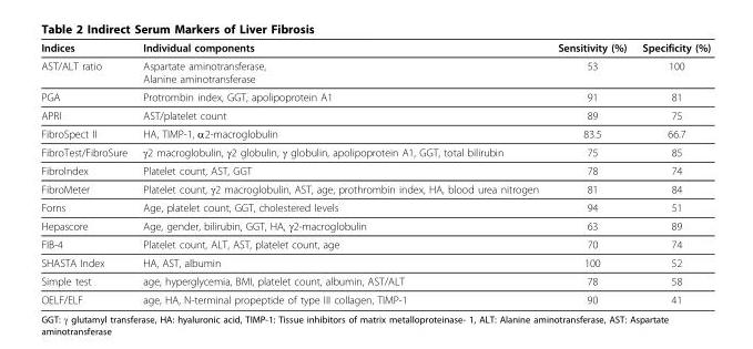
<table><thead><tr><td>Indices</td><td>Individual components</td><td>Sensitivity (%)</td><td>Specificity (%)</td></tr></thead><tbody><tr><td>AST/ALT ratio</td><td>Aspartate aminotransferase, Alanine aminotransferase</td><td>53</td><td>100</td></tr><tr><td>PGA</td><td>Protrombin index, GGT, apolipoprotein A1</td><td>91</td><td>81</td></tr><tr><td>APRI</td><td>AST/platelet count</td><td>89</td><td>75</td></tr><tr><td>FibroSpect II</td><td>HA, TIMP-1, α2-macroglobulin</td><td>83.5</td><td>66.7</td></tr><tr><td>FibroTest/FibroSure</td><td>γ2 macroglobulin, γ2 globulin, γ globulin, apolipoprotein A1, GGT, total bilirubin</td><td>75</td><td>85</td></tr><tr><td>FibroIndex</td><td>Platelet count, AST, GGT</td><td>78</td><td>74</td></tr><tr><td>FibroMeter</td><td>Platelet count, γ2 macroglobulin, AST, age, prothrombin index, HA, blood urea nitrogen</td><td>81</td><td>84</td></tr><tr><td>Forns</td><td>Age, platelet count, GGT, cholestered levels</td><td>94</td><td>51</td></tr><tr><td>Hepascore</td><td>Age, gender, bilirubin, GGT, HA, γ2-macroglobulin</td><td>63</td><td>89</td></tr><tr><td>FIB-4</td><td>Platelet count, ALT, AST, platelet count, age</td><td>70</td><td>74</td></tr><tr><td>SHASTA Index</td><td>HA, AST, albumin</td><td>100</td><td>52</td></tr><tr><td>Simple test</td><td>age, hyperglycemia, BMI, platelet count, albumin, AST/ALT</td><td>78</td><td>58</td></tr><tr><td>OELF/ELF</td><td>age, HA, N-terminal propeptide of type III collagen, TIMP-1</td><td>90</td><td>41</td></tr></tbody></table>